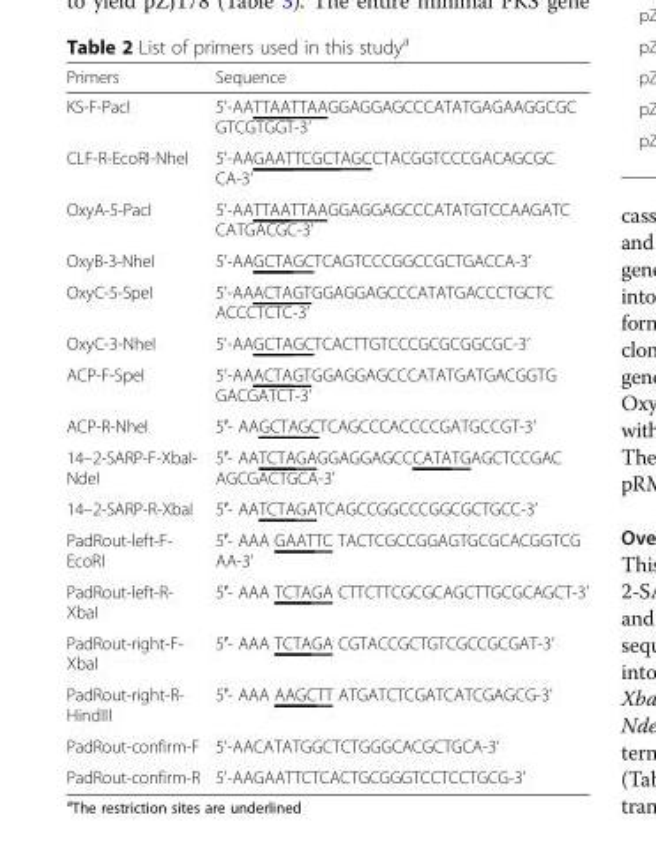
<table><thead><tr><td>Primers</td><td>Sequence</td></tr></thead><tbody><tr><td>KS-F-PacI</td><td>5’-AATTAATTAAGGAGGAGCCCATATGAGAAGGCGC GTCGTGGT-3’</td></tr><tr><td>CLF-R-EcoRI-NheI</td><td>5’-AAGAATTCGCTAGCCTACGGTCCCGACAGCGC CA-3’</td></tr><tr><td>OxyA-5-PacI</td><td>5’-AATTAATTAAGGAGGAGCCCATATGTCCAAGATC CATGACGC-3’</td></tr><tr><td>OxyB-3-NheI</td><td>5’-AAGCTAGCTCAGTCCCGGCCGCTGACCA-3’</td></tr><tr><td>OxyC-5-SpeI</td><td>5’-AAACTAGTGGAGGAGCCCATATGACCCTGCTC ACCCTCTC-3’</td></tr><tr><td>OxyC-3-NheI</td><td>5’-AAGCTAGCTCACTTGTCCCGCGCGGCGC-3’</td></tr><tr><td>ACP-F-SpeI</td><td>5’-AAACTAGTGGAGGAGCCCATATGATGACGGTG GACGATCT-3’</td></tr><tr><td>ACP-R-NheI</td><td>5′- AAGCTAGCTCAGCCCACCCCGATGCCGT-3’</td></tr><tr><td>14–2-SARP-F-XbaI- NdeI</td><td>5′- AATCTAGAGGAGGAGCCCATATGAGCTCCGAC AGCGACTGCA-3’</td></tr><tr><td>14–2-SARP-R-XbaI</td><td>5′- AATCTAGATCAGCCGGCCCGGCGCTGCC-3’</td></tr><tr><td>PadRout-left-F- EcoRI</td><td>5′- AAA GAATTC TACTCGCCGGAGTGCGCACGGTCG AA-3’</td></tr><tr><td>PadRout-left-R- XbaI</td><td>5′- AAA TCTAGA CTTCTTCGCGCAGCTTGCGCAGCT-3’</td></tr><tr><td>PadRout-right-F- XbaI</td><td>5′- AAA TCTAGA CGTACCGCTGTCGCCGCGAT-3’</td></tr><tr><td>PadRout-right-R- HindIII</td><td>5′- AAA AAGCTT ATGATCTCGATCATCGAGCG-3’</td></tr><tr><td>PadRout-confirm-F</td><td>5’-AACATATGGCTCTGGGCACGCTGCA-3’</td></tr><tr><td>PadRout-confirm-R</td><td>5’-AAGAATTCTCACTGCGGGTCCTCCTGCG-3’</td></tr></tbody></table>